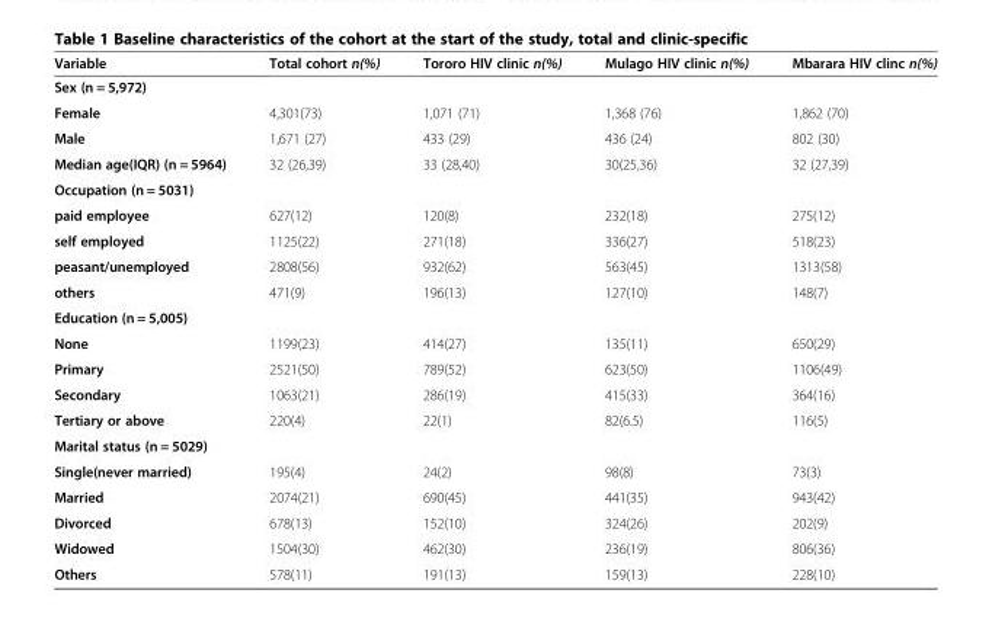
<table><thead><tr><td>Variable</td><td>Total cohort n(%)</td><td>Tororo HIV clinic n(%)</td><td>Mulago HIV clinic n(%)</td><td>Mbarara HIV clinc n(%)</td></tr></thead><tbody><tr><td colspan="5">Sex (n = 5,972)</td></tr><tr><td>Female</td><td>4,301(73)</td><td>1,071 (71)</td><td>1,368 (76)</td><td>1,862 (70)</td></tr><tr><td>Male</td><td>1,671 (27)</td><td>433 (29)</td><td>436 (24)</td><td>802 (30)</td></tr><tr><td>Median age(IQR) (n = 5964)</td><td>32 (26,39)</td><td>33 (28,40)</td><td>30(25,36)</td><td>32 (27,39)</td></tr><tr><td colspan="5">Occupation (n = 5031)</td></tr><tr><td>paid employee</td><td>627(12)</td><td>120(8)</td><td>232(18)</td><td>275(12)</td></tr><tr><td>self employed</td><td>1125(22)</td><td>271(18)</td><td>336(27)</td><td>518(23)</td></tr><tr><td>peasant/unemployed</td><td>2808(56)</td><td>932(62)</td><td>563(45)</td><td>1313(58)</td></tr><tr><td>others</td><td>471(9)</td><td>196(13)</td><td>127(10)</td><td>148(7)</td></tr><tr><td colspan="5">Education (n = 5,005)</td></tr><tr><td>None</td><td>1199(23)</td><td>414(27)</td><td>135(11)</td><td>650(29)</td></tr><tr><td>Primary</td><td>2521(50)</td><td>789(52)</td><td>623(50)</td><td>1106(49)</td></tr><tr><td>Secondary</td><td>1063(21)</td><td>286(19)</td><td>415(33)</td><td>364(16)</td></tr><tr><td>Tertiary or above</td><td>220(4)</td><td>22(1)</td><td>82(6.5)</td><td>116(5)</td></tr><tr><td colspan="5">Marital status (n = 5029)</td></tr><tr><td>Single(never married)</td><td>195(4)</td><td>24(2)</td><td>98(8)</td><td>73(3)</td></tr><tr><td>Married</td><td>2074(21)</td><td>690(45)</td><td>441(35)</td><td>943(42)</td></tr><tr><td>Divorced</td><td>678(13)</td><td>152(10)</td><td>324(26)</td><td>202(9)</td></tr><tr><td>Widowed</td><td>1504(30)</td><td>462(30)</td><td>236(19)</td><td>806(36)</td></tr><tr><td>Others</td><td>578(11)</td><td>191(13)</td><td>159(13)</td><td>228(10)</td></tr></tbody></table>